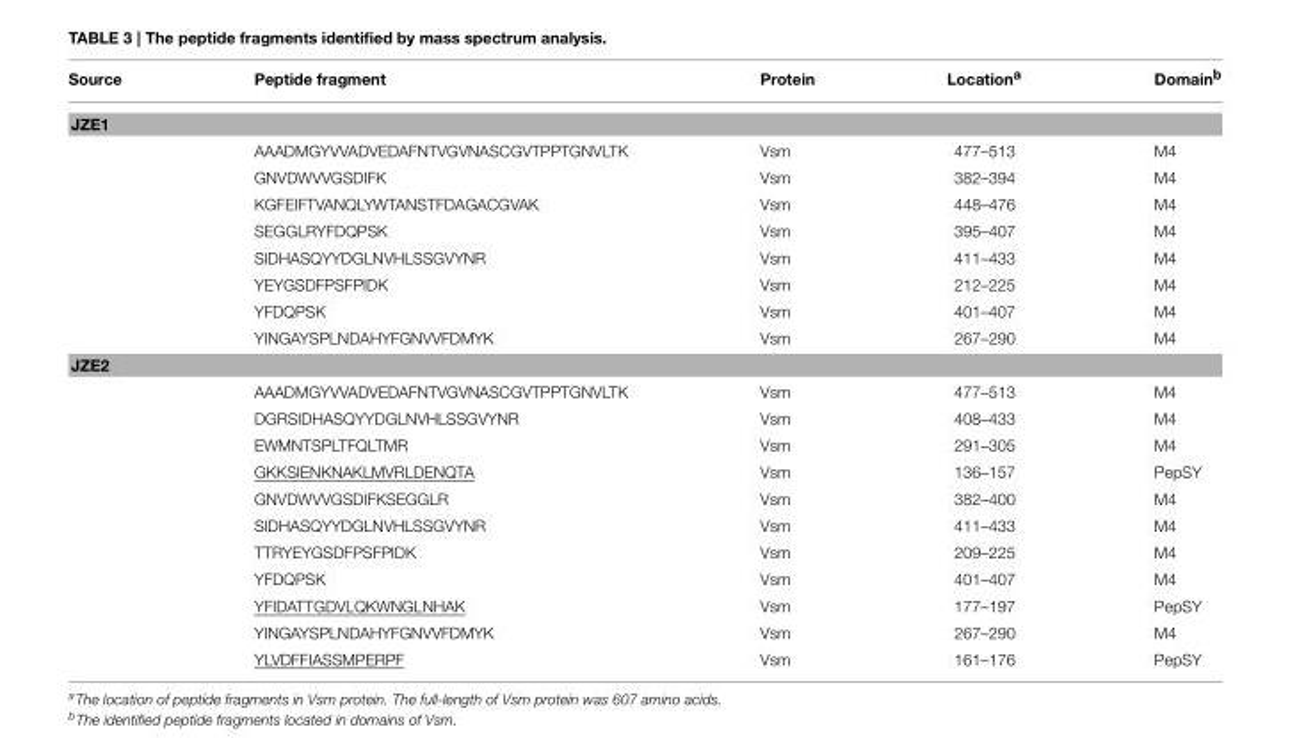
<table><thead><tr><td>Source</td><td>Peptide fragment</td><td>Protein</td><td>Location<sup>a</sup></td><td>Domain<sup>b</sup></td></tr></thead><tbody><tr><td colspan="5">JZE1</td></tr><tr><td></td><td>AAADMGYVVADVEDAFNTVGVNASCGVTPPTGNVLTK</td><td>Vsm</td><td>477–513</td><td>M4</td></tr><tr><td></td><td>GNVDWVVGSDIFK</td><td>Vsm</td><td>382–394</td><td>M4</td></tr><tr><td></td><td>KGFEIFTVANQLYWTANSTFDAGACGVAK</td><td>Vsm</td><td>448–476</td><td>M4</td></tr><tr><td></td><td>SEGGLRYFDQPSK</td><td>Vsm</td><td>395–407</td><td>M4</td></tr><tr><td></td><td>SIDHASQYYDGLNVHLSSGVYNR</td><td>Vsm</td><td>411–433</td><td>M4</td></tr><tr><td></td><td>YEYGSDFPSFPIDK</td><td>Vsm</td><td>212–225</td><td>M4</td></tr><tr><td></td><td>YFDQPSK</td><td>Vsm</td><td>401–407</td><td>M4</td></tr><tr><td></td><td>YINGAYSPLNDAHYFGNVVFDMYK</td><td>Vsm</td><td>267–290</td><td>M4</td></tr><tr><td colspan="5">JZE2</td></tr><tr><td></td><td>AAADMGYVVADVEDAFNTVGVNASCGVTPPTGNVLTK</td><td>Vsm</td><td>477–513</td><td>M4</td></tr><tr><td></td><td>DGRSIDHASQYYDGLNVHLSSGVYNR</td><td>Vsm</td><td>408–433</td><td>M4</td></tr><tr><td></td><td>EWMNTSPLTFQLTMR</td><td>Vsm</td><td>291–305</td><td>M4</td></tr><tr><td></td><td>GKKSIENKNAKLMVRLDENQTA</td><td>Vsm</td><td>136–157</td><td>PepSY</td></tr><tr><td></td><td>GNVDWVVGSDIFKSEGGLR</td><td>Vsm</td><td>382–400</td><td>M4</td></tr><tr><td></td><td>SIDHASQYYDGLNVHLSSGVYNR</td><td>Vsm</td><td>411–433</td><td>M4</td></tr><tr><td></td><td>TTRYEYGSDFPSFPIDK</td><td>Vsm</td><td>209–225</td><td>M4</td></tr><tr><td></td><td>YFDQPSK</td><td>Vsm</td><td>401–407</td><td>M4</td></tr><tr><td></td><td>YFIDATTGDVLQKWNGLNHAK</td><td>Vsm</td><td>177–197</td><td>PepSY</td></tr><tr><td></td><td>YINGAYSPLNDAHYFGNVVFDMYK</td><td>Vsm</td><td>267–290</td><td>M4</td></tr><tr><td></td><td>YLVDFFIASSMPERPF</td><td>Vsm</td><td>161–176</td><td>PepSY</td></tr></tbody></table>